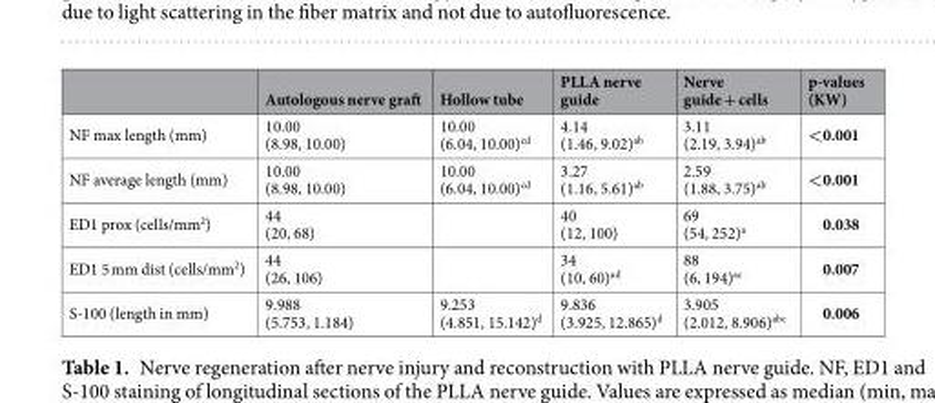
<table><thead><tr><td></td><td>Autologous nerve graft</td><td>Hollow tube</td><td>PLLA nerve guide</td><td>Nerve guide + cells</td><td>p-values (KW)</td></tr></thead><tbody><tr><td>NF max length (mm)</td><td>10.00 (8.98, 10.00)</td><td>10.00 (6.04, 10.00)<sup>cd</sup></td><td>4.14 (1.46, 9.02)<sup>ab</sup></td><td>3.11 (2.19, 3.94)<sup>ab</sup></td><td>&lt;0.001</td></tr><tr><td>NF average length (mm)</td><td>10.00 (8.98, 10.00)</td><td>10.00 (6.04, 10.00)<sup>cd</sup></td><td>3.27 (1.16, 5.61)<sup>ab</sup></td><td>2.59 (1.88, 3.75)<sup>ab</sup></td><td>&lt;0.001</td></tr><tr><td>ED1 prox (cells/mm<sup>2</sup>)</td><td>44 (20, 68)</td><td></td><td>40 (12, 100)</td><td>69 (54, 252)<sup>a</sup></td><td>0.038</td></tr><tr><td>ED1 5 mm dist (cells/mm<sup>2</sup>)</td><td>44 (26, 106)</td><td></td><td>34 (10, 60)<sup>ad</sup></td><td>88 (6, 194)<sup>ac</sup></td><td>0.007</td></tr><tr><td>S-100 (length in mm)</td><td>9.988 (5.753, 1.184)</td><td>9.253 (4.851, 15.142)<sup>d</sup></td><td>9.836 (3.925, 12.865)<sup>d</sup></td><td>3.905 (2.012, 8.906)<sup>abc</sup></td><td>0.006</td></tr></tbody></table>